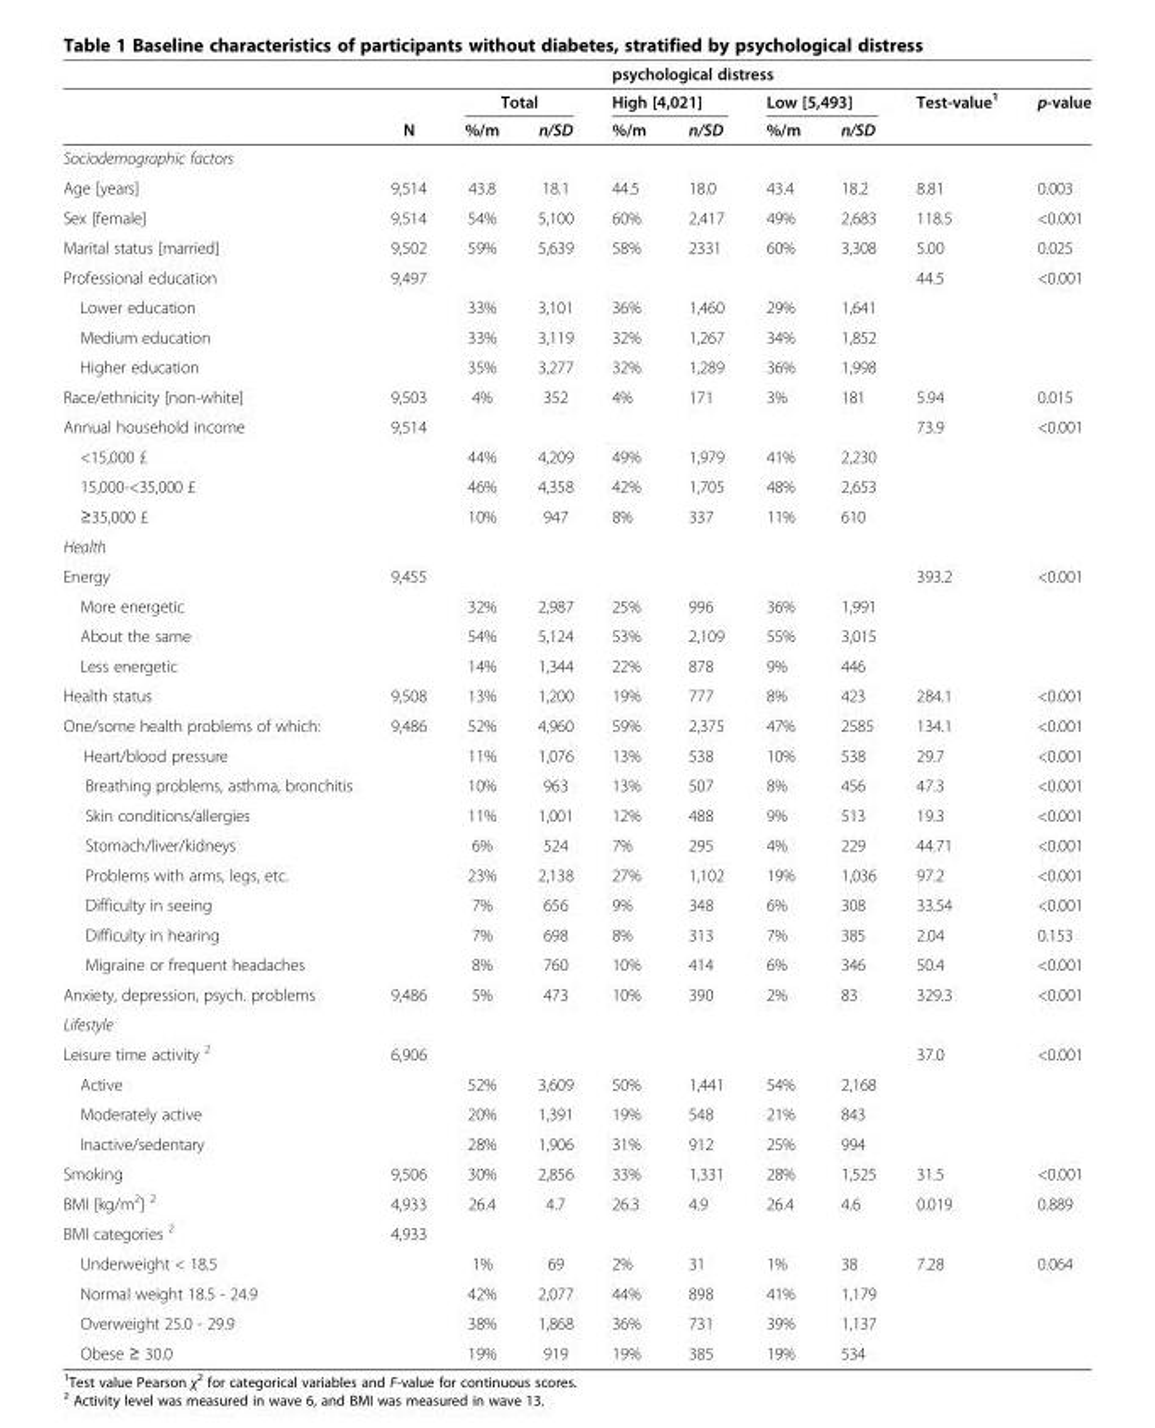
<table><thead><tr><td rowspan="3"></td><td rowspan="3">N</td><td></td><td></td><td colspan="4">psychological distress</td><td rowspan="3">Test-value<sup>1</sup></td><td rowspan="3">p-value</td></tr><tr><td colspan="2">Total</td><td colspan="2">High [4,021]</td><td colspan="2">Low [5,493]</td></tr><tr><td>%/m</td><td>n/SD</td><td>%/m</td><td>n/SD</td><td>%/m</td><td>n/SD</td></tr></thead><tbody><tr><td colspan="10">Sociodemographic factors</td></tr><tr><td>Age [years]</td><td>9,514</td><td>43.8</td><td>18.1</td><td>44.5</td><td>18.0</td><td>43.4</td><td>18.2</td><td>8.81</td><td>0.003</td></tr><tr><td>Sex [female]</td><td>9,514</td><td>54%</td><td>5,100</td><td>60%</td><td>2,417</td><td>49%</td><td>2,683</td><td>118.5</td><td>&lt;0.001</td></tr><tr><td>Marital status [married]</td><td>9,502</td><td>59%</td><td>5,639</td><td>58%</td><td>2331</td><td>60%</td><td>3,308</td><td>5.00</td><td>0.025</td></tr><tr><td>Professional education</td><td>9,497</td><td></td><td></td><td></td><td></td><td></td><td></td><td>44.5</td><td>&lt;0.001</td></tr><tr><td>Lower education</td><td></td><td>33%</td><td>3,101</td><td>36%</td><td>1,460</td><td>29%</td><td>1,641</td><td></td><td></td></tr><tr><td>Medium education</td><td></td><td>33%</td><td>3,119</td><td>32%</td><td>1,267</td><td>34%</td><td>1,852</td><td></td><td></td></tr><tr><td>Higher education</td><td></td><td>35%</td><td>3,277</td><td>32%</td><td>1,289</td><td>36%</td><td>1,998</td><td></td><td></td></tr><tr><td>Race/ethnicity [non-white]</td><td>9,503</td><td>4%</td><td>352</td><td>4%</td><td>171</td><td>3%</td><td>181</td><td>5.94</td><td>0.015</td></tr><tr><td>Annual household income</td><td>9,514</td><td></td><td></td><td></td><td></td><td></td><td></td><td>73.9</td><td>&lt;0.001</td></tr><tr><td>&lt;15,000 £</td><td></td><td>44%</td><td>4,209</td><td>49%</td><td>1,979</td><td>41%</td><td>2,230</td><td></td><td></td></tr><tr><td>15,000-&lt;35,000 £</td><td></td><td>46%</td><td>4,358</td><td>42%</td><td>1,705</td><td>48%</td><td>2,653</td><td></td><td></td></tr><tr><td>≥35,000 £</td><td></td><td>10%</td><td>947</td><td>8%</td><td>337</td><td>11%</td><td>610</td><td></td><td></td></tr><tr><td colspan="10">Health</td></tr><tr><td>Energy</td><td>9,455</td><td></td><td></td><td></td><td></td><td></td><td></td><td>393.2</td><td>&lt;0.001</td></tr><tr><td>More energetic</td><td></td><td>32%</td><td>2,987</td><td>25%</td><td>996</td><td>36%</td><td>1,991</td><td></td><td></td></tr><tr><td>About the same</td><td></td><td>54%</td><td>5,124</td><td>53%</td><td>2,109</td><td>55%</td><td>3,015</td><td></td><td></td></tr><tr><td>Less energetic</td><td></td><td>14%</td><td>1,344</td><td>22%</td><td>878</td><td>9%</td><td>446</td><td></td><td></td></tr><tr><td>Health status</td><td>9,508</td><td>13%</td><td>1,200</td><td>19%</td><td>777</td><td>8%</td><td>423</td><td>284.1</td><td>&lt;0.001</td></tr><tr><td>One/some health problems of which:</td><td>9,486</td><td>52%</td><td>4,960</td><td>59%</td><td>2,375</td><td>47%</td><td>2585</td><td>134.1</td><td>&lt;0.001</td></tr><tr><td>Heart/blood pressure</td><td></td><td>11%</td><td>1,076</td><td>13%</td><td>538</td><td>10%</td><td>538</td><td>29.7</td><td>&lt;0.001</td></tr><tr><td>Breathing problems, asthma, bronchitis</td><td></td><td>10%</td><td>963</td><td>13%</td><td>507</td><td>8%</td><td>456</td><td>47.3</td><td>&lt;0.001</td></tr><tr><td>Skin conditions/allergies</td><td></td><td>11%</td><td>1,001</td><td>12%</td><td>488</td><td>9%</td><td>513</td><td>19.3</td><td>&lt;0.001</td></tr><tr><td>Stomach/liver/kidneys</td><td></td><td>6%</td><td>524</td><td>7%</td><td>295</td><td>4%</td><td>229</td><td>44.71</td><td>&lt;0.001</td></tr><tr><td>Problems with arms, legs, etc.</td><td></td><td>23%</td><td>2,138</td><td>27%</td><td>1,102</td><td>19%</td><td>1,036</td><td>97.2</td><td>&lt;0.001</td></tr><tr><td>Difficulty in seeing</td><td></td><td>7%</td><td>656</td><td>9%</td><td>348</td><td>6%</td><td>308</td><td>33.54</td><td>&lt;0.001</td></tr><tr><td>Difficulty in hearing</td><td></td><td>7%</td><td>698</td><td>8%</td><td>313</td><td>7%</td><td>385</td><td>2.04</td><td>0.153</td></tr><tr><td>Migraine or frequent headaches</td><td></td><td>8%</td><td>760</td><td>10%</td><td>414</td><td>6%</td><td>346</td><td>50.4</td><td>&lt;0.001</td></tr><tr><td>Anxiety, depression, psych. problems</td><td>9,486</td><td>5%</td><td>473</td><td>10%</td><td>390</td><td>2%</td><td>83</td><td>329.3</td><td>&lt;0.001</td></tr><tr><td colspan="10">Lifestyle</td></tr><tr><td>Leisure time activity <sup>2</sup></td><td>6,906</td><td></td><td></td><td></td><td></td><td></td><td></td><td>37.0</td><td>&lt;0.001</td></tr><tr><td>Active</td><td></td><td>52%</td><td>3,609</td><td>50%</td><td>1,441</td><td>54%</td><td>2,168</td><td></td><td></td></tr><tr><td>Moderately active</td><td></td><td>20%</td><td>1,391</td><td>19%</td><td>548</td><td>21%</td><td>843</td><td></td><td></td></tr><tr><td>Inactive/sedentary</td><td></td><td>28%</td><td>1,906</td><td>31%</td><td>912</td><td>25%</td><td>994</td><td></td><td></td></tr><tr><td>Smoking</td><td>9,506</td><td>30%</td><td>2,856</td><td>33%</td><td>1,331</td><td>28%</td><td>1,525</td><td>31.5</td><td>&lt;0.001</td></tr><tr><td>BMI [kg/m<sup>2</sup>] <sup>2</sup></td><td>4,933</td><td>26.4</td><td>4.7</td><td>26.3</td><td>4.9</td><td>26.4</td><td>4.6</td><td>0.019</td><td>0.889</td></tr><tr><td>BMI categories <sup>2</sup></td><td>4,933</td><td></td><td></td><td></td><td></td><td></td><td></td><td></td><td></td></tr><tr><td>Underweight &lt; 18.5</td><td></td><td>1%</td><td>69</td><td>2%</td><td>31</td><td>1%</td><td>38</td><td>7.28</td><td>0.064</td></tr><tr><td>Normal weight 18.5 - 24.9</td><td></td><td>42%</td><td>2,077</td><td>44%</td><td>898</td><td>41%</td><td>1,179</td><td></td><td></td></tr><tr><td>Overweight 25.0 - 29.9</td><td></td><td>38%</td><td>1,868</td><td>36%</td><td>731</td><td>39%</td><td>1,137</td><td></td><td></td></tr><tr><td>Obese ≥ 30.0</td><td></td><td>19%</td><td>919</td><td>19%</td><td>385</td><td>19%</td><td>534</td><td></td><td></td></tr></tbody></table>